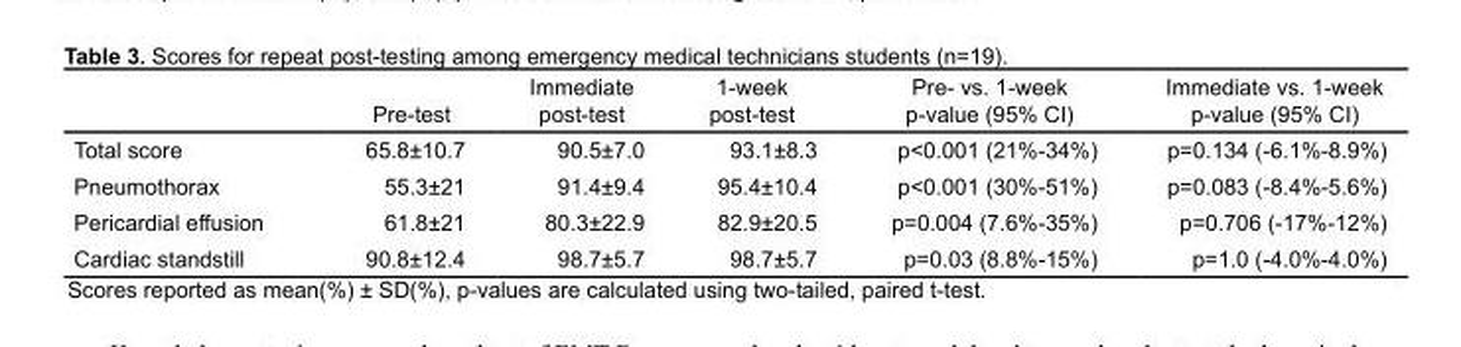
<table><thead><tr><td></td><td>Pre-test</td><td>Immediate post-test</td><td>1-week post-test</td><td>Pre- vs. 1-week p-value (95% CI)</td><td>Immediate vs. 1-week p-value (95% CI)</td></tr></thead><tbody><tr><td>Total score</td><td>65.8±10.7</td><td>90.5±7.0</td><td>93.1±8.3</td><td>p&lt;0.001 (21%-34%)</td><td>p=0.134 (-6.1%-8.9%)</td></tr><tr><td>Pneumothorax</td><td>55.3±21</td><td>91.4±9.4</td><td>95.4±10.4</td><td>p&lt;0.001 (30%-51%)</td><td>p=0.083 (-8.4%-5.6%)</td></tr><tr><td>Pericardial effusion</td><td>61.8±21</td><td>80.3±22.9</td><td>82.9±20.5</td><td>p=0.004 (7.6%-35%)</td><td>p=0.706 (-17%-12%)</td></tr><tr><td>Cardiac standstill</td><td>90.8±12.4</td><td>98.7±5.7</td><td>98.7±5.7</td><td>p=0.03 (8.8%-15%)</td><td>p=1.0 (-4.0%-4.0%)</td></tr></tbody></table>